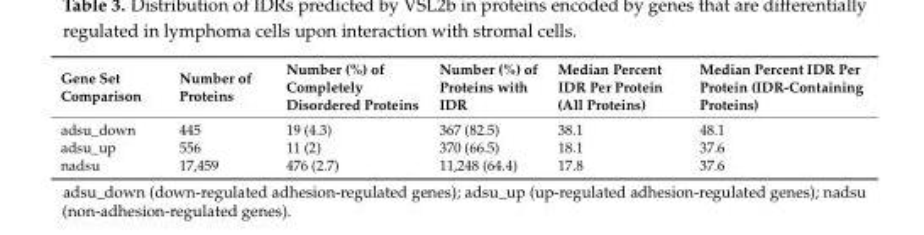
<table><thead><tr><td>Gene Set Comparison</td><td>Number of Proteins</td><td>Number (%) of Completely Disordered Proteins</td><td>Number (%) of Proteins with IDR</td><td>Median Percent IDR Per Protein (All Proteins)</td><td>Median Percent IDR Per Protein (IDR-Containing Proteins)</td></tr></thead><tbody><tr><td>adsu_down</td><td>445</td><td>19 (4.3)</td><td>367 (82.5)</td><td>38.1</td><td>48.1</td></tr><tr><td>adsu_up</td><td>556</td><td>11 (2)</td><td>370 (66.5)</td><td>18.1</td><td>37.6</td></tr><tr><td>nadsu</td><td>17,459</td><td>476 (2.7)</td><td>11,248 (64.4)</td><td>17.8</td><td>37.6</td></tr></tbody></table>